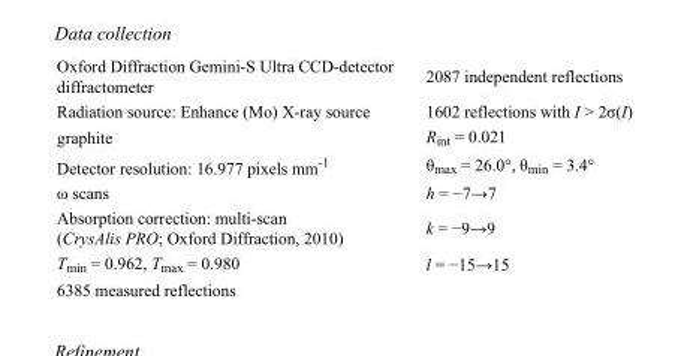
<table><tbody><tr><td>Oxford Diffraction Gemini-S Ultra CCD-detector diffractometer</td><td>2087 independent reflections</td></tr><tr><td>Radiation source: Enhance (Mo) X-ray source</td><td>1602 reflections with I &gt; 2σ(I)</td></tr><tr><td>graphite</td><td>R<sub>int</sub> = 0.021</td></tr><tr><td>Detector resolution: 16.977 pixels mm<sup>-1</sup></td><td>θ<sub>max</sub> = 26.0°, θ<sub>min</sub> = 3.4°</td></tr><tr><td>ω scans</td><td>h = −7→7</td></tr><tr><td>Absorption correction: multi-scan (CrysAlis PRO; Oxford Diffraction, 2010)</td><td>k = −9→9</td></tr><tr><td>T<sub>min</sub> = 0.962, T<sub>max</sub> = 0.980</td><td>l = −15→15</td></tr><tr><td>6385 measured reflections</td><td></td></tr></tbody></table>